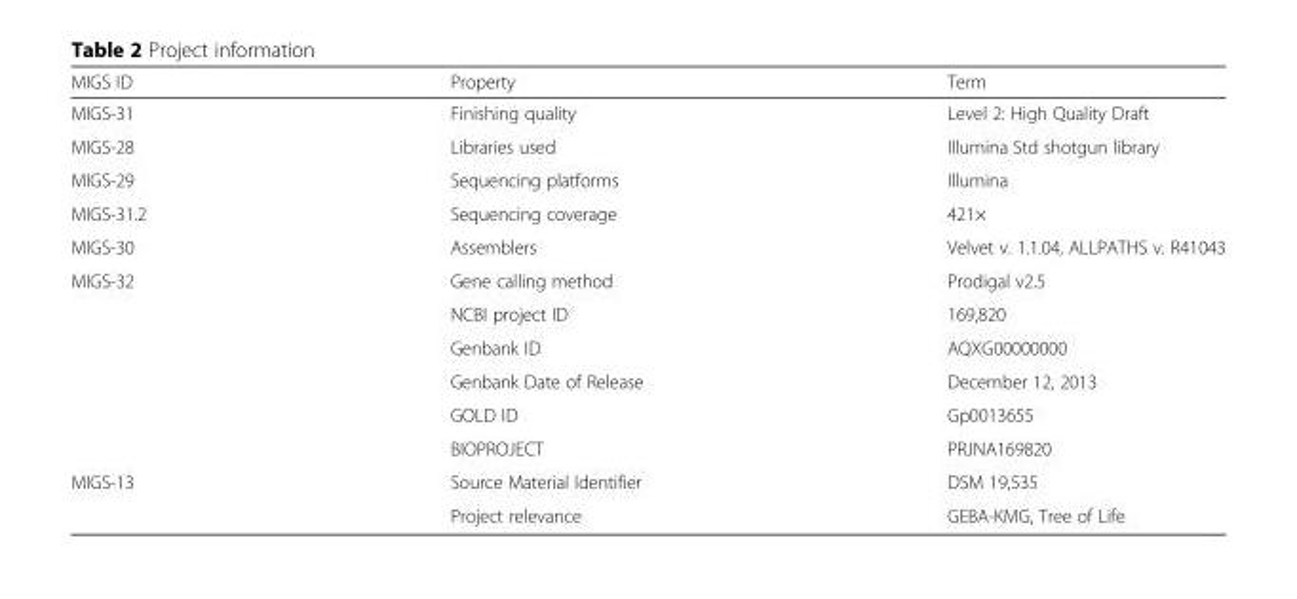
<table><thead><tr><td>MIGS ID</td><td>Property</td><td>Term</td></tr></thead><tbody><tr><td>MIGS-31</td><td>Finishing quality</td><td>Level 2: High Quality Draft</td></tr><tr><td>MIGS-28</td><td>Libraries used</td><td>Illumina Std shotgun library</td></tr><tr><td>MIGS-29</td><td>Sequencing platforms</td><td>Illumina</td></tr><tr><td>MIGS-31.2</td><td>Sequencing coverage</td><td>421×</td></tr><tr><td>MIGS-30</td><td>Assemblers</td><td>Velvet v. 1.1.04, ALLPATHS v. R41043</td></tr><tr><td rowspan="6">MIGS-32</td><td>Gene calling method</td><td>Prodigal v2.5</td></tr><tr><td>NCBI project ID</td><td>169,820</td></tr><tr><td>Genbank ID</td><td>AQXG00000000</td></tr><tr><td>Genbank Date of Release</td><td>December 12, 2013</td></tr><tr><td>GOLD ID</td><td>Gp0013655</td></tr><tr><td>BIOPROJECT</td><td>PRJNA169820</td></tr><tr><td rowspan="2">MIGS-13</td><td>Source Material Identifier</td><td>DSM 19,535</td></tr><tr><td>Project relevance</td><td>GEBA-KMG, Tree of Life</td></tr></tbody></table>